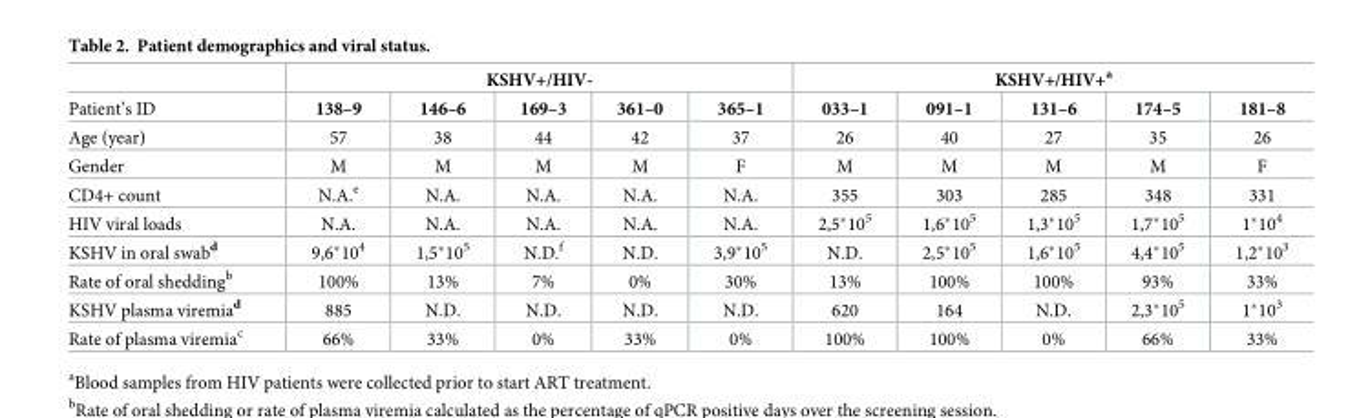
<table><thead><tr><td rowspan="2">Patient’s ID</td><td colspan="5">KSHV+/HIV-</td><td colspan="5">KSHV+/HIV+<sup>a</sup></td></tr><tr><td>138–9</td><td>146–6</td><td>169–3</td><td>361–0</td><td>365–1</td><td>033–1</td><td>091–1</td><td>131–6</td><td>174–5</td><td>181–8</td></tr></thead><tbody><tr><td>Age (year)</td><td>57</td><td>38</td><td>44</td><td>42</td><td>37</td><td>26</td><td>40</td><td>27</td><td>35</td><td>26</td></tr><tr><td>Gender</td><td>M</td><td>M</td><td>M</td><td>M</td><td>F</td><td>M</td><td>M</td><td>M</td><td>M</td><td>F</td></tr><tr><td>CD4+ count</td><td>N.A.<sup>e</sup></td><td>N.A.</td><td>N.A.</td><td>N.A.</td><td>N.A.</td><td>355</td><td>303</td><td>285</td><td>348</td><td>331</td></tr><tr><td>HIV viral loads</td><td>N.A.</td><td>N.A.</td><td>N.A.</td><td>N.A.</td><td>N.A.</td><td>2,5*10<sup>5</sup></td><td>1,6*10<sup>5</sup></td><td>1,3*10<sup>5</sup></td><td>1,7*10<sup>5</sup></td><td>1*10<sup>4</sup></td></tr><tr><td>KSHV in oral swab<sup>d</sup></td><td>9,6*10<sup>4</sup></td><td>1,5*10<sup>5</sup></td><td>N.D.<sup>f</sup></td><td>N.D.</td><td>3,9*10<sup>5</sup></td><td>N.D.</td><td>2,5*10<sup>5</sup></td><td>1,6*10<sup>5</sup></td><td>4,4*10<sup>5</sup></td><td>1,2*10<sup>3</sup></td></tr><tr><td>Rate of oral shedding<sup>b</sup></td><td>100%</td><td>13%</td><td>7%</td><td>0%</td><td>30%</td><td>13%</td><td>100%</td><td>100%</td><td>93%</td><td>33%</td></tr><tr><td>KSHV plasma viremia<sup>d</sup></td><td>885</td><td>N.D.</td><td>N.D.</td><td>N.D.</td><td>N.D.</td><td>620</td><td>164</td><td>N.D.</td><td>2,3*10<sup>5</sup></td><td>1*10<sup>3</sup></td></tr><tr><td>Rate of plasma viremia<sup>c</sup></td><td>66%</td><td>33%</td><td>0%</td><td>33%</td><td>0%</td><td>100%</td><td>100%</td><td>0%</td><td>66%</td><td>33%</td></tr></tbody></table>